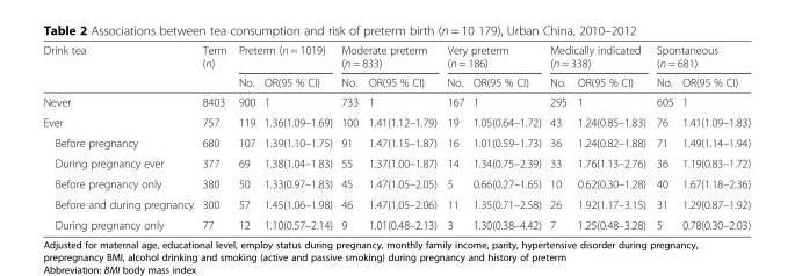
<table><thead><tr><td rowspan="2">Drink tea</td><td rowspan="2">Term (n)</td><td colspan="2">Preterm (n = 1019)</td><td colspan="2">Moderate preterm (n = 833)</td><td colspan="2">Very preterm (n = 186)</td><td colspan="2">Medically indicated (n = 338)</td><td colspan="2">Spontaneous (n = 681)</td></tr><tr><td>No.</td><td>OR(95 % CI)</td><td>No.</td><td>OR(95 % CI)</td><td>No.</td><td>OR(95 % CI)</td><td>No.</td><td>OR(95 % CI)</td><td>No.</td><td>OR(95 % CI)</td></tr></thead><tbody><tr><td>Never</td><td>8403</td><td>900</td><td>1</td><td>733</td><td>1</td><td>167</td><td>1</td><td>295</td><td>1</td><td>605</td><td>1</td></tr><tr><td>Ever</td><td>757</td><td>119</td><td>1.36(1.09–1.69)</td><td>100</td><td>1.41(1.12–1.79)</td><td>19</td><td>1.05(0.64–1.72)</td><td>43</td><td>1.24(0.85–1.83)</td><td>76</td><td>1.41(1.09–1.83)</td></tr><tr><td>Before pregnancy</td><td>680</td><td>107</td><td>1.39(1.10–1.75)</td><td>91</td><td>1.47(1.15–1.87)</td><td>16</td><td>1.01(0.59–1.73)</td><td>36</td><td>1.24(0.82–1.88)</td><td>71</td><td>1.49(1.14–1.94)</td></tr><tr><td>During pregnancy ever</td><td>377</td><td>69</td><td>1.38(1.04–1.83)</td><td>55</td><td>1.37(1.00–1.87)</td><td>14</td><td>1.34(0.75–2.39)</td><td>33</td><td>1.76(1.13–2.76)</td><td>36</td><td>1.19(0.83–1.72)</td></tr><tr><td>Before pregnancy only</td><td>380</td><td>50</td><td>1.33(0.97–1.83)</td><td>45</td><td>1.47(1.05–2.05)</td><td>5</td><td>0.66(0.27–1.65)</td><td>10</td><td>0.62(0.30–1.28)</td><td>40</td><td>1.67(1.18–2.36)</td></tr><tr><td>Before and during pregnancy</td><td>300</td><td>57</td><td>1.45(1.06–1.98)</td><td>46</td><td>1.47(1.05–2.06)</td><td>11</td><td>1.35(0.71–2.58)</td><td>26</td><td>1.92(1.17–3.15)</td><td>31</td><td>1.29(0.87–1.92)</td></tr><tr><td>During pregnancy only</td><td>77</td><td>12</td><td>1.10(0.57–2.14)</td><td>9</td><td>1.01(0.48–2.13)</td><td>3</td><td>1.30(0.38–4.42)</td><td>7</td><td>1.25(0.48–3.28)</td><td>5</td><td>0.78(0.30–2.03)</td></tr></tbody></table>